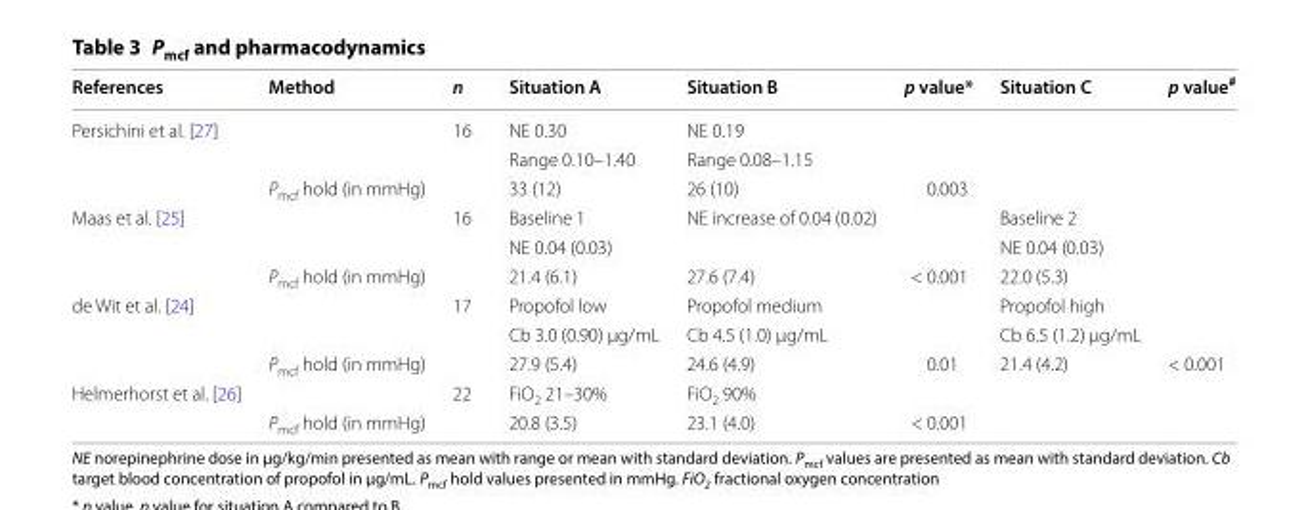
<table><thead><tr><td>References</td><td>Method</td><td>n</td><td>Situation A</td><td>Situation B</td><td>p value*</td><td>Situation C</td><td>p value<sup>#</sup></td></tr></thead><tbody><tr><td rowspan="3">Persichini et al. [27]</td><td></td><td>16</td><td>NE 0.30</td><td>NE 0.19</td><td></td><td></td><td></td></tr><tr><td></td><td></td><td>Range 0.10–1.40</td><td>Range 0.08–1.15</td><td></td><td></td><td></td></tr><tr><td>P<sub>mcf</sub> hold (in mmHg)</td><td></td><td>33 (12)</td><td>26 (10)</td><td>0.003</td><td></td><td></td></tr><tr><td rowspan="3">Maas et al. [25]</td><td></td><td>16</td><td>Baseline 1</td><td>NE increase of 0.04 (0.02)</td><td></td><td>Baseline 2</td><td></td></tr><tr><td></td><td></td><td>NE 0.04 (0.03)</td><td></td><td></td><td>NE 0.04 (0.03)</td><td></td></tr><tr><td>P<sub>mcf</sub> hold (in mmHg)</td><td></td><td>21.4 (6.1)</td><td>27.6 (7.4)</td><td>&lt; 0.001</td><td>22.0 (5.3)</td><td></td></tr><tr><td rowspan="3">de Wit et al. [24]</td><td></td><td>17</td><td>Propofol low</td><td>Propofol medium</td><td></td><td>Propofol high</td><td></td></tr><tr><td></td><td></td><td>Cb 3.0 (0.90) μg/mL</td><td>Cb 4.5 (1.0) μg/mL</td><td></td><td>Cb 6.5 (1.2) μg/mL</td><td></td></tr><tr><td>P<sub>mcf</sub> hold (in mmHg)</td><td></td><td>27.9 (5.4)</td><td>24.6 (4.9)</td><td>0.01</td><td>21.4 (4.2)</td><td>&lt; 0.001</td></tr><tr><td rowspan="2">Helmerhorst et al. [26]</td><td></td><td>22</td><td>FiO<sub>2</sub> 21–30%</td><td>FiO<sub>2</sub> 90%</td><td></td><td></td><td></td></tr><tr><td>P<sub>mcf</sub> hold (in mmHg)</td><td></td><td>20.8 (3.5)</td><td>23.1 (4.0)</td><td>&lt; 0.001</td><td></td><td></td></tr></tbody></table>